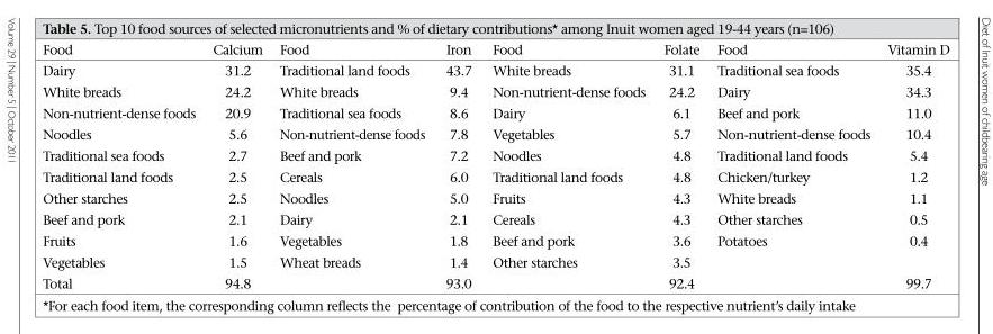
<table><thead><tr><td>Food</td><td>Calcium</td><td>Food</td><td>Iron</td><td>Food</td><td>Folate</td><td>Food</td><td>Vitamin D</td></tr></thead><tbody><tr><td>Dairy</td><td>31.2</td><td>Traditional land foods</td><td>43.7</td><td>White breads</td><td>31.1</td><td>Traditional sea foods</td><td>35.4</td></tr><tr><td>White breads</td><td>24.2</td><td>White breads</td><td>9.4</td><td>Non-nutrient-dense foods</td><td>24.2</td><td>Dairy</td><td>34.3</td></tr><tr><td>Non-nutrient-dense foods</td><td>20.9</td><td>Traditional sea foods</td><td>8.6</td><td>Dairy</td><td>6.1</td><td>Beef and pork</td><td>11.0</td></tr><tr><td>Noodles</td><td>5.6</td><td>Non-nutrient-dense foods</td><td>7.8</td><td>Vegetables</td><td>5.7</td><td>Non-nutrient-dense foods</td><td>10.4</td></tr><tr><td>Traditional sea foods</td><td>2.7</td><td>Beef and pork</td><td>7.2</td><td>Noodles</td><td>4.8</td><td>Traditional land foods</td><td>5.4</td></tr><tr><td>Traditional land foods</td><td>2.5</td><td>Cereals</td><td>6.0</td><td>Traditional land foods</td><td>4.8</td><td>Chicken/turkey</td><td>1.2</td></tr><tr><td>Other starches</td><td>2.5</td><td>Noodles</td><td>5.0</td><td>Fruits</td><td>4.3</td><td>White breads</td><td>1.1</td></tr><tr><td>Beef and pork</td><td>2.1</td><td>Dairy</td><td>2.1</td><td>Cereals</td><td>4.3</td><td>Other starches</td><td>0.5</td></tr><tr><td>Fruits</td><td>1.6</td><td>Vegetables</td><td>1.8</td><td>Beef and pork</td><td>3.6</td><td>Potatoes</td><td>0.4</td></tr><tr><td>Vegetables</td><td>1.5</td><td>Wheat breads</td><td>1.4</td><td>Other starches</td><td>3.5</td><td></td><td></td></tr><tr><td>Total</td><td>94.8</td><td></td><td>93.0</td><td></td><td>92.4</td><td></td><td>99.7</td></tr></tbody></table>